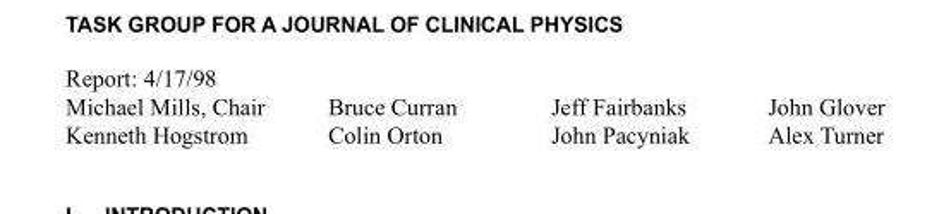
<table><tbody><tr><td colspan="4">Report: 4/17/98</td></tr><tr><td>Michael Mills, Chair</td><td>Bruce Curran</td><td>Jeff Fairbanks</td><td>John Glover</td></tr><tr><td>Kenneth Hogstrom</td><td>Colin Orton</td><td>John Pacyniak</td><td>Alex Turner</td></tr></tbody></table>